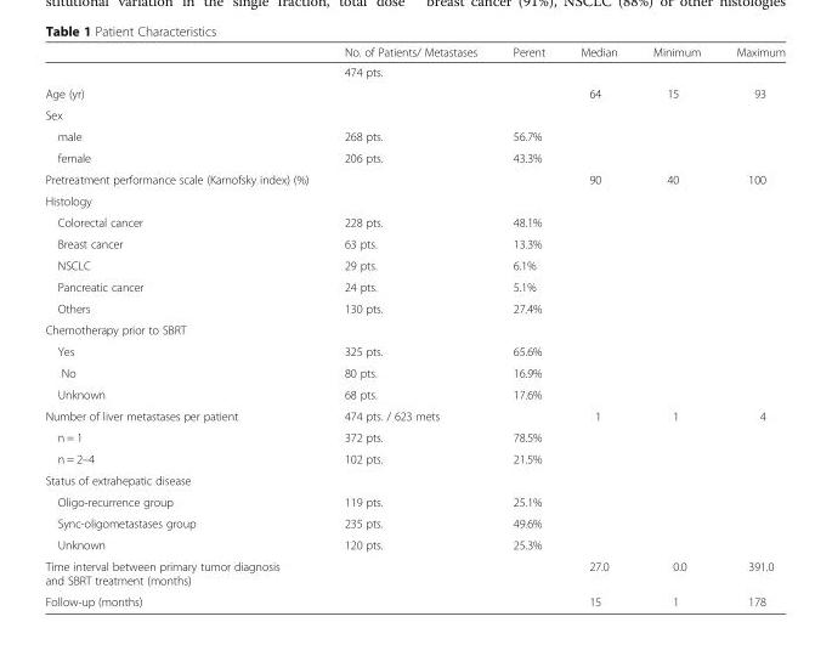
<table><thead><tr><td></td><td>No. of Patients/ Metastases</td><td>Perent</td><td>Median</td><td>Minimum</td><td>Maximum</td></tr></thead><tbody><tr><td></td><td>474 pts.</td><td></td><td></td><td></td><td></td></tr><tr><td>Age (yr)</td><td></td><td></td><td>64</td><td>15</td><td>93</td></tr><tr><td colspan="6">Sex</td></tr><tr><td>male</td><td>268 pts.</td><td>56.7%</td><td></td><td></td><td></td></tr><tr><td>female</td><td>206 pts.</td><td>43.3%</td><td></td><td></td><td></td></tr><tr><td>Pretreatment performance scale (Karnofsky index) (%)</td><td></td><td></td><td>90</td><td>40</td><td>100</td></tr><tr><td colspan="6">Histology</td></tr><tr><td>Colorectal cancer</td><td>228 pts.</td><td>48.1%</td><td></td><td></td><td></td></tr><tr><td>Breast cancer</td><td>63 pts.</td><td>13.3%</td><td></td><td></td><td></td></tr><tr><td>NSCLC</td><td>29 pts.</td><td>6.1%</td><td></td><td></td><td></td></tr><tr><td>Pancreatic cancer</td><td>24 pts.</td><td>5.1%</td><td></td><td></td><td></td></tr><tr><td>Others</td><td>130 pts.</td><td>27.4%</td><td></td><td></td><td></td></tr><tr><td colspan="6">Chemotherapy prior to SBRT</td></tr><tr><td>Yes</td><td>325 pts.</td><td>65.6%</td><td></td><td></td><td></td></tr><tr><td>No</td><td>80 pts.</td><td>16.9%</td><td></td><td></td><td></td></tr><tr><td>Unknown</td><td>68 pts.</td><td>17.6%</td><td></td><td></td><td></td></tr><tr><td>Number of liver metastases per patient</td><td>474 pts. / 623 mets</td><td></td><td>1</td><td>1</td><td>4</td></tr><tr><td>n = 1</td><td>372 pts.</td><td>78.5%</td><td></td><td></td><td></td></tr><tr><td>n = 2–4</td><td>102 pts.</td><td>21.5%</td><td></td><td></td><td></td></tr><tr><td colspan="6">Status of extrahepatic disease</td></tr><tr><td>Oligo-recurrence group</td><td>119 pts.</td><td>25.1%</td><td></td><td></td><td></td></tr><tr><td>Sync-oligometastases group</td><td>235 pts.</td><td>49.6%</td><td></td><td></td><td></td></tr><tr><td>Unknown</td><td>120 pts.</td><td>25.3%</td><td></td><td></td><td></td></tr><tr><td>Time interval between primary tumor diagnosis and SBRT treatment (months)</td><td></td><td></td><td>27.0</td><td>0.0</td><td>391.0</td></tr><tr><td>Follow-up (months)</td><td></td><td></td><td>15</td><td>1</td><td>178</td></tr></tbody></table>